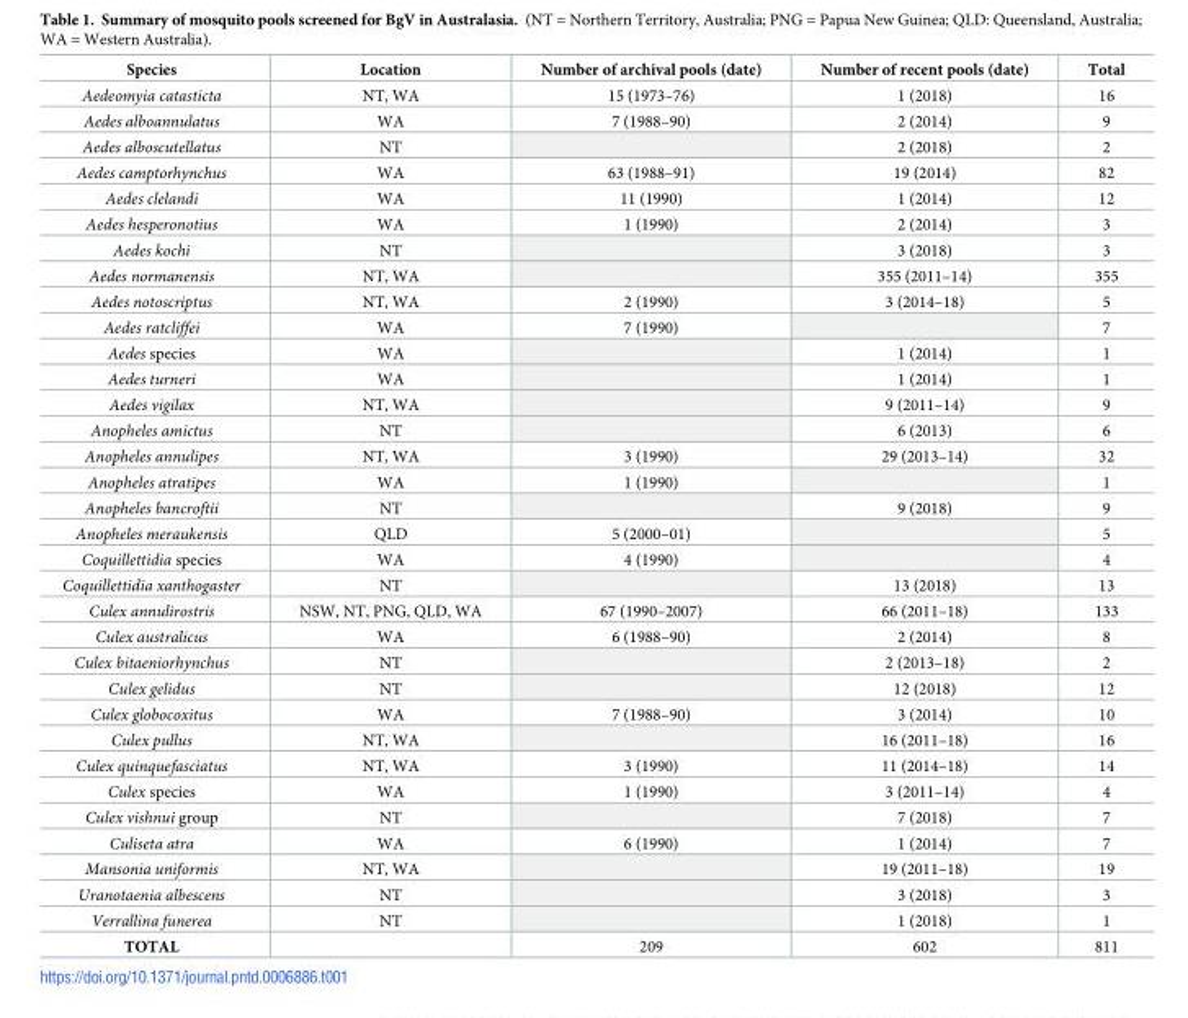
<table><thead><tr><td>Species</td><td>Location</td><td>Number of archival pools (date)</td><td>Number of recent pools (date)</td><td>Total</td></tr></thead><tbody><tr><td>Aedeomyia catasticta</td><td>NT, WA</td><td>15 (1973–76)</td><td>1 (2018)</td><td>16</td></tr><tr><td>Aedes alboannulatus</td><td>WA</td><td>7 (1988–90)</td><td>2 (2014)</td><td>9</td></tr><tr><td>Aedes alboscutellatus</td><td>NT</td><td></td><td>2 (2018)</td><td>2</td></tr><tr><td>Aedes camptorhynchus</td><td>WA</td><td>63 (1988–91)</td><td>19 (2014)</td><td>82</td></tr><tr><td>Aedes clelandi</td><td>WA</td><td>11 (1990)</td><td>1 (2014)</td><td>12</td></tr><tr><td>Aedes hesperonotius</td><td>WA</td><td>1 (1990)</td><td>2 (2014)</td><td>3</td></tr><tr><td>Aedes kochi</td><td>NT</td><td></td><td>3 (2018)</td><td>3</td></tr><tr><td>Aedes normanensis</td><td>NT, WA</td><td></td><td>355 (2011–14)</td><td>355</td></tr><tr><td>Aedes notoscriptus</td><td>NT, WA</td><td>2 (1990)</td><td>3 (2014–18)</td><td>5</td></tr><tr><td>Aedes ratcliffei</td><td>WA</td><td>7 (1990)</td><td></td><td>7</td></tr><tr><td>Aedes species</td><td>WA</td><td></td><td>1 (2014)</td><td>1</td></tr><tr><td>Aedes turneri</td><td>WA</td><td></td><td>1 (2014)</td><td>1</td></tr><tr><td>Aedes vigilax</td><td>NT, WA</td><td></td><td>9 (2011–14)</td><td>9</td></tr><tr><td>Anopheles amictus</td><td>NT</td><td></td><td>6 (2013)</td><td>6</td></tr><tr><td>Anopheles annulipes</td><td>NT, WA</td><td>3 (1990)</td><td>29 (2013–14)</td><td>32</td></tr><tr><td>Anopheles atratipes</td><td>WA</td><td>1 (1990)</td><td></td><td>1</td></tr><tr><td>Anopheles bancroftii</td><td>NT</td><td></td><td>9 (2018)</td><td>9</td></tr><tr><td>Anopheles meraukensis</td><td>QLD</td><td>5 (2000–01)</td><td></td><td>5</td></tr><tr><td>Coquillettidia species</td><td>WA</td><td>4 (1990)</td><td></td><td>4</td></tr><tr><td>Coquillettidia xanthogaster</td><td>NT</td><td></td><td>13 (2018)</td><td>13</td></tr><tr><td>Culex annulirostris</td><td>NSW, NT, PNG, QLD, WA</td><td>67 (1990–2007)</td><td>66 (2011–18)</td><td>133</td></tr><tr><td>Culex australicus</td><td>WA</td><td>6 (1988–90)</td><td>2 (2014)</td><td>8</td></tr><tr><td>Culex bitaeniorhynchus</td><td>NT</td><td></td><td>2 (2013–18)</td><td>2</td></tr><tr><td>Culex gelidus</td><td>NT</td><td></td><td>12 (2018)</td><td>12</td></tr><tr><td>Culex globocoxitus</td><td>WA</td><td>7 (1988–90)</td><td>3 (2014)</td><td>10</td></tr><tr><td>Culex pullus</td><td>NT, WA</td><td></td><td>16 (2011–18)</td><td>16</td></tr><tr><td>Culex quinquefasciatus</td><td>NT, WA</td><td>3 (1990)</td><td>11 (2014–18)</td><td>14</td></tr><tr><td>Culex species</td><td>WA</td><td>1 (1990)</td><td>3 (2011–14)</td><td>4</td></tr><tr><td>Culex vishnui group</td><td>NT</td><td></td><td>7 (2018)</td><td>7</td></tr><tr><td>Culiseta atra</td><td>WA</td><td>6 (1990)</td><td>1 (2014)</td><td>7</td></tr><tr><td>Mansonia uniformis</td><td>NT, WA</td><td></td><td>19 (2011–18)</td><td>19</td></tr><tr><td>Uranotaenia albescens</td><td>NT</td><td></td><td>3 (2018)</td><td>3</td></tr><tr><td>Verrallina funerea</td><td>NT</td><td></td><td>1 (2018)</td><td>1</td></tr><tr><td>TOTAL</td><td></td><td>209</td><td>602</td><td>811</td></tr></tbody></table>